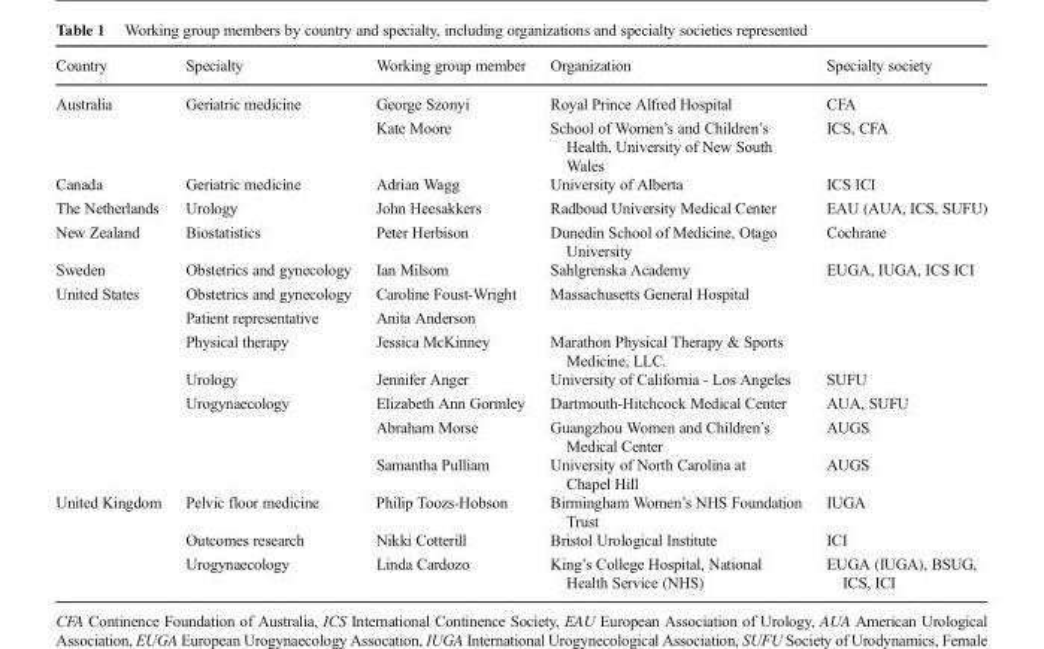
<table><thead><tr><td>Country</td><td>Specialty</td><td>Working group member</td><td>Organization</td><td>Specialty society</td></tr></thead><tbody><tr><td rowspan="2">Australia</td><td>Geriatric medicine</td><td>George Szonyi</td><td>Royal Prince Alfred Hospital</td><td>CFA</td></tr><tr><td></td><td>Kate Moore</td><td>School of Women’s and Children’s Health, University of New South Wales</td><td>ICS, CFA</td></tr><tr><td>Canada</td><td>Geriatric medicine</td><td>Adrian Wagg</td><td>University of Alberta</td><td>ICS ICI</td></tr><tr><td>The Netherlands</td><td>Urology</td><td>John Heesakkers</td><td>Radboud University Medical Center</td><td>EAU (AUA, ICS, SUFU)</td></tr><tr><td>New Zealand</td><td>Biostatistics</td><td>Peter Herbison</td><td>Dunedin School of Medicine, Otago University</td><td>Cochrane</td></tr><tr><td>Sweden</td><td>Obstetrics and gynecology</td><td>Ian Milsom</td><td>Sahlgrenska Academy</td><td>EUGA, IUGA, ICS ICI</td></tr><tr><td rowspan="7">United States</td><td>Obstetrics and gynecology</td><td>Caroline Foust-Wright</td><td>Massachusetts General Hospital</td><td></td></tr><tr><td>Patient representative</td><td>Anita Anderson</td><td></td><td></td></tr><tr><td>Physical therapy</td><td>Jessica McKinney</td><td>Marathon Physical Therapy &amp; Sports Medicine, LLC.</td><td></td></tr><tr><td>Urology</td><td>Jennifer Anger</td><td>University of California - Los Angeles</td><td>SUFU</td></tr><tr><td>Urogynaecology</td><td>Elizabeth Ann Gormley</td><td>Dartmouth-Hitchcock Medical Center</td><td>AUA, SUFU</td></tr><tr><td></td><td>Abraham Morse</td><td>Guangzhou Women and Children’s Medical Center</td><td>AUGS</td></tr><tr><td></td><td>Samantha Pulliam</td><td>University of North Carolina at Chapel Hill</td><td>AUGS</td></tr><tr><td rowspan="3">United Kingdom</td><td>Pelvic floor medicine</td><td>Philip Toozs-Hobson</td><td>Birmingham Women’s NHS Foundation Trust</td><td>IUGA</td></tr><tr><td>Outcomes research</td><td>Nikki Cotterill</td><td>Bristol Urological Institute</td><td>ICI</td></tr><tr><td>Urogynaecology</td><td>Linda Cardozo</td><td>King’s College Hospital, National Health Service (NHS)</td><td>EUGA (IUGA), BSUG, ICS, ICI</td></tr></tbody></table>